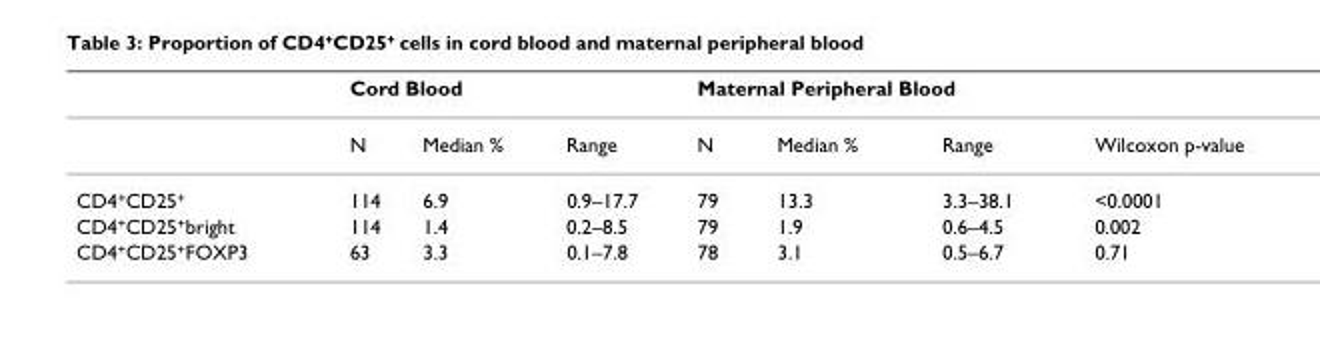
<table><thead><tr><td rowspan="2"></td><td colspan="3">Cord Blood</td><td colspan="3">Maternal Peripheral Blood</td><td rowspan="2">Wilcoxon p-value</td></tr><tr><td>N</td><td>Median %</td><td>Range</td><td>N</td><td>Median %</td><td>Range</td></tr></thead><tbody><tr><td>CD4<sup>+</sup>CD25<sup>+</sup></td><td>114</td><td>6.9</td><td>0.9–17.7</td><td>79</td><td>13.3</td><td>3.3–38.1</td><td>&lt;0.0001</td></tr><tr><td>CD4<sup>+</sup>CD25<sup>+</sup>bright</td><td>114</td><td>1.4</td><td>0.2–8.5</td><td>79</td><td>1.9</td><td>0.6–4.5</td><td>0.002</td></tr><tr><td>CD4<sup>+</sup>CD25<sup>+</sup>FOXP3</td><td>63</td><td>3.3</td><td>0.1–7.8</td><td>78</td><td>3.1</td><td>0.5–6.7</td><td>0.71</td></tr></tbody></table>